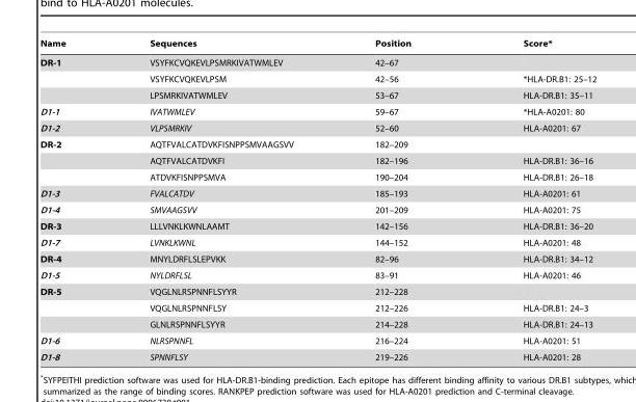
<table><thead><tr><td>Name</td><td>Sequences</td><td>Position</td><td>Score*</td></tr></thead><tbody><tr><td rowspan="3">DR-1</td><td>VSYFKCVQKEVLPSMRKIVATWMLEV</td><td>42–67</td><td></td></tr><tr><td>VSYFKCVQKEVLPSM</td><td>42–56</td><td>*HLA-DR.B1: 25–12</td></tr><tr><td>LPSMRKIVATWMLEV</td><td>53–67</td><td>HLA-DR.B1: 35–11</td></tr><tr><td>D1-1</td><td>IVATWMLEV</td><td>59–67</td><td>*HLA-A0201: 80</td></tr><tr><td>D1-2</td><td>VLPSMRKIV</td><td>52–60</td><td>HLA-A0201: 67</td></tr><tr><td rowspan="3">DR-2</td><td>AQTFVALCATDVKFISNPPSMVAAGSVV</td><td>182–209</td><td></td></tr><tr><td>AQTFVALCATDVKFI</td><td>182–196</td><td>HLA-DR.B1: 36–16</td></tr><tr><td>ATDVKFISNPPSMVA</td><td>190–204</td><td>HLA-DR.B1: 26–18</td></tr><tr><td>D1-3</td><td>FVALCATDV</td><td>185–193</td><td>HLA-A0201: 61</td></tr><tr><td>D1-4</td><td>SMVAAGSVV</td><td>201–209</td><td>HLA-A0201: 75</td></tr><tr><td>DR-3</td><td>LLLVNKLKWNLAAMT</td><td>142–156</td><td>HLA-DR.B1: 36–20</td></tr><tr><td>D1-7</td><td>LVNKLKWNL</td><td>144–152</td><td>HLA-A0201: 48</td></tr><tr><td>DR-4</td><td>MNYLDRFLSLEPVKK</td><td>82–96</td><td>HLA-DR.B1: 34–12</td></tr><tr><td>D1-5</td><td>NYLDRFLSL</td><td>83–91</td><td>HLA-A0201: 46</td></tr><tr><td rowspan="3">DR-5</td><td>VQGLNLRSPNNFLSYYR</td><td>212–228</td><td></td></tr><tr><td>VQGLNLRSPNNFLSY</td><td>212–226</td><td>HLA-DR.B1: 24–3</td></tr><tr><td>GLNLRSPNNFLSYYR</td><td>214–228</td><td>HLA-DR.B1: 24–13</td></tr><tr><td>D1-6</td><td>NLRSPNNFL</td><td>216–224</td><td>HLA-A0201: 51</td></tr><tr><td>D1-8</td><td>SPNNFLSY</td><td>219–226</td><td>HLA-A0201: 28</td></tr></tbody></table>